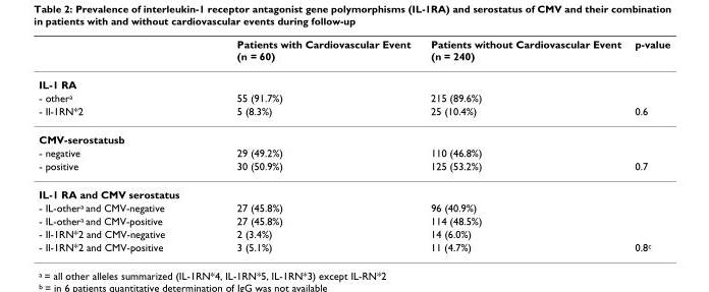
<table><thead><tr><td></td><td>Patients with Cardiovascular Event (n = 60)</td><td>Patients without Cardiovascular Event (n = 240)</td><td>p-value</td></tr></thead><tbody><tr><td colspan="4">IL-1 RA</td></tr><tr><td>- other<sup>a</sup></td><td>55 (91.7%)</td><td>215 (89.6%)</td><td></td></tr><tr><td>- Il-1RN*2</td><td>5 (8.3%)</td><td>25 (10.4%)</td><td>0.6</td></tr><tr><td colspan="4">CMV-serostatusb</td></tr><tr><td>- negative</td><td>29 (49.2%)</td><td>110 (46.8%)</td><td></td></tr><tr><td>- positive</td><td>30 (50.9%)</td><td>125 (53.2%)</td><td>0.7</td></tr><tr><td colspan="4">IL-1 RA and CMV serostatus</td></tr><tr><td>- IL-other<sup>a</sup> and CMV-negative</td><td>27 (45.8%)</td><td>96 (40.9%)</td><td></td></tr><tr><td>- IL-other<sup>a</sup> and CMV-positive</td><td>27 (45.8%)</td><td>114 (48.5%)</td><td></td></tr><tr><td>- Il-1RN*2 and CMV-negative</td><td>2 (3.4%)</td><td>14 (6.0%)</td><td></td></tr><tr><td>- Il-1RN*2 and CMV-positive</td><td>3 (5.1%)</td><td>11 (4.7%)</td><td>0.8<sup>c</sup></td></tr></tbody></table>